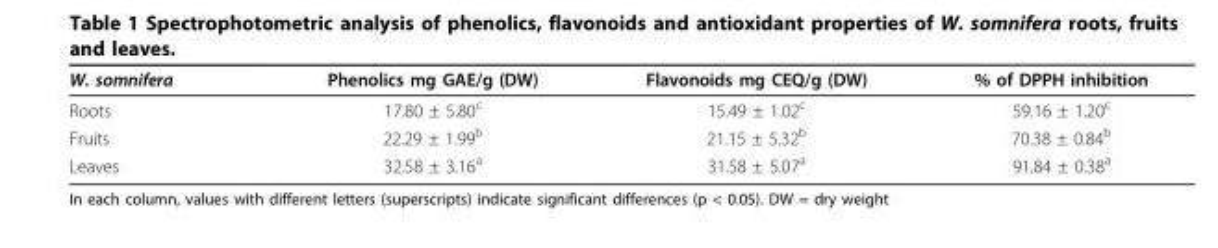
<table><thead><tr><td>W. somnifera</td><td>Phenolics mg GAE/g (DW)</td><td>Flavonoids mg CEQ/g (DW)</td><td>% of DPPH inhibition</td></tr></thead><tbody><tr><td>Roots</td><td>17.80 ± 5.80<sup>c</sup></td><td>15.49 ± 1.02<sup>c</sup></td><td>59.16 ± 1.20<sup>c</sup></td></tr><tr><td>Fruits</td><td>22.29 ± 1.99<sup>b</sup></td><td>21.15 ± 5.32<sup>b</sup></td><td>70.38 ± 0.84<sup>b</sup></td></tr><tr><td>Leaves</td><td>32.58 ± 3.16<sup>a</sup></td><td>31.58 ± 5.07<sup>a</sup></td><td>91.84 ± 0.38<sup>a</sup></td></tr></tbody></table>